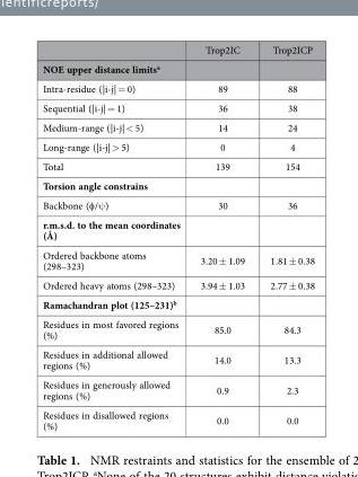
<table><thead><tr><td rowspan="2">NOE upper distance limits<sup>a</sup></td><td rowspan="2">Trop2IC</td><td rowspan="2">Trop2ICP</td></tr><tr></tr></thead><tbody><tr><td>Intra-residue (|i-j| = 0)</td><td>89</td><td>88</td></tr><tr><td>Sequential (|i-j| = 1)</td><td>36</td><td>38</td></tr><tr><td>Medium-range (|i-j| &lt; 5)</td><td>14</td><td>24</td></tr><tr><td>Long-range (|i-j| &gt; 5)</td><td>0</td><td>4</td></tr><tr><td>Total</td><td>139</td><td>154</td></tr><tr><td colspan="3">Torsion angle constrains</td></tr><tr><td>Backbone (φ /ψ )</td><td>30</td><td>36</td></tr><tr><td colspan="3">r.m.s.d. to the mean coordinates (Å)</td></tr><tr><td>Ordered backbone atoms (298–323)</td><td>3.20 ± 1.09</td><td>1.81 ± 0.38</td></tr><tr><td>Ordered heavy atoms (298–323)</td><td>3.94 ± 1.03</td><td>2.77 ± 0.38</td></tr><tr><td colspan="3">Ramachandran plot (125–231)<sup>b</sup></td></tr><tr><td>Residues in most favored regions (%)</td><td>85.0</td><td>84.3</td></tr><tr><td>Residues in additional allowed regions (%)</td><td>14.0</td><td>13.3</td></tr><tr><td>Residues in generously allowed regions (%)</td><td>0.9</td><td>2.3</td></tr><tr><td>Residues in disallowed regions (%)</td><td>0.0</td><td>0.0</td></tr></tbody></table>